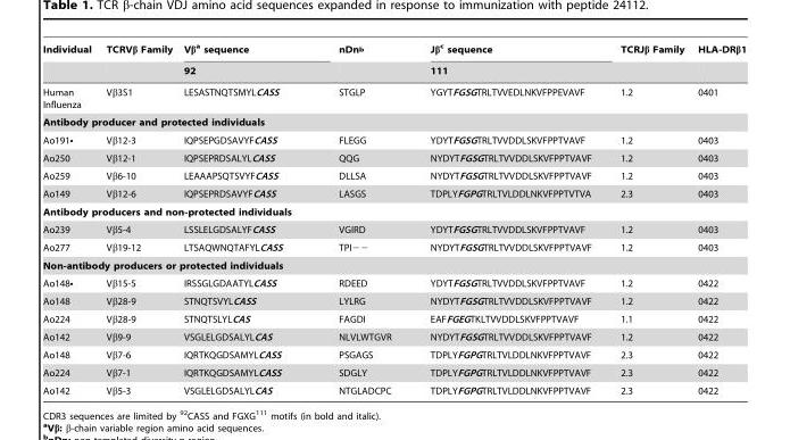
<table><thead><tr><td rowspan="2">Individual</td><td rowspan="2">TCRVβ Family</td><td rowspan="2">Vβ<sup>a</sup> sequence 92</td><td rowspan="2">nDn<sup>b</sup></td><td rowspan="2">Jβ<sup>c</sup> sequence 111</td><td rowspan="2">TCRJβ Family</td><td rowspan="2">HLA-DRβ1</td></tr><tr></tr></thead><tbody><tr><td>Human Influenza</td><td>Vβ3S1</td><td>LESASTNQTSMYLCASS</td><td>STGLP</td><td>YGYTFGSGTRLTVVEDLNKVFPPEVAVF</td><td>1.2</td><td>0401</td></tr><tr><td colspan="7">Antibody producer and protected individuals</td></tr><tr><td>Ao191•</td><td>Vβ12-3</td><td>IQPSEPGDSAVYFCASS</td><td>FLEGG</td><td>YDYTFGSGTRLTVVDDLSKVFPPTVAVF</td><td>1.2</td><td>0403</td></tr><tr><td>Ao250</td><td>Vβ12-1</td><td>IQPSEPRDSALYLCASS</td><td>QQG</td><td>NYDYTFGSGTRLTVVDDLSKVFPPTVAVF</td><td>1.2</td><td>0403</td></tr><tr><td>Ao259</td><td>Vβ6-10</td><td>LEAAAPSQTSVYFCASS</td><td>DLLSA</td><td>NYDYTFGSGTRLTVVDDLSKVFPPTVAVF</td><td>1.2</td><td>0403</td></tr><tr><td>Ao149</td><td>Vβ12-6</td><td>IQPSEPRDSAVYFCASS</td><td>LASGS</td><td>TDPLYFGPGTRLTVLDDLNKVFPPTVTVA</td><td>2.3</td><td>0403</td></tr><tr><td colspan="7">Antibody producers and non-protected individuals</td></tr><tr><td>Ao239</td><td>Vβ5-4</td><td>LSSLELGDSALYFCASS</td><td>VGIRD</td><td>YDYTFGSGTRLTVVDDLSKVFPPTVAVF</td><td>1.2</td><td>0403</td></tr><tr><td>Ao277</td><td>Vβ19-12</td><td>LTSAQWNQTAFYLCASS</td><td>TPI−−</td><td>NYDYTFGSGTRLTVVDDLSKVFPPTVAVF</td><td>1.2</td><td>0403</td></tr><tr><td colspan="7">Non-antibody producers or protected individuals</td></tr><tr><td>Ao148•</td><td>Vβ15-5</td><td>IRSSGLGDAATYLCASS</td><td>RDEED</td><td>YDYTFGSGTRLTVVDDLSKVFPPTVAVF</td><td>1.2</td><td>0422</td></tr><tr><td>Ao148</td><td>Vβ28-9</td><td>STNQTSVYLCASS</td><td>LYLRG</td><td>NYDYTFGSGTRLTVVDDLSKVFPPTVAVF</td><td>1.2</td><td>0422</td></tr><tr><td>Ao224</td><td>Vβ28-9</td><td>STNQTSLYLCAS</td><td>FAGDI</td><td>EAFFGEGTKLTVVDDLSKVFPPTVAVF</td><td>1.1</td><td>0422</td></tr><tr><td>Ao142</td><td>Vβ9-9</td><td>VSGLELGDSALYLCAS</td><td>NLVLWTGVR</td><td>NYDYTFGSGTRLTVVDDLSKVFPPTVAVF</td><td>1.2</td><td>0422</td></tr><tr><td>Ao148</td><td>Vβ7-6</td><td>IQRTKQGDSAMYLCASS</td><td>PSGAGS</td><td>TDPLYFGPGTRLTVLDDLNKVFPPTVAVF</td><td>2.3</td><td>0422</td></tr><tr><td>Ao224</td><td>Vβ7-1</td><td>IQRTKQGDSAMYLCASS</td><td>SDGLY</td><td>TDPLYFGPGTRLTVLDDLNKVFPPTVAVF</td><td>2.3</td><td>0422</td></tr><tr><td>Ao142</td><td>Vβ5-3</td><td>VSGLELGDSALYLCAS</td><td>NTGLADCPC</td><td>TDPLYFGPGTRLTVLDDLNKVFPPTVAVF</td><td>2.3</td><td>0422</td></tr></tbody></table>